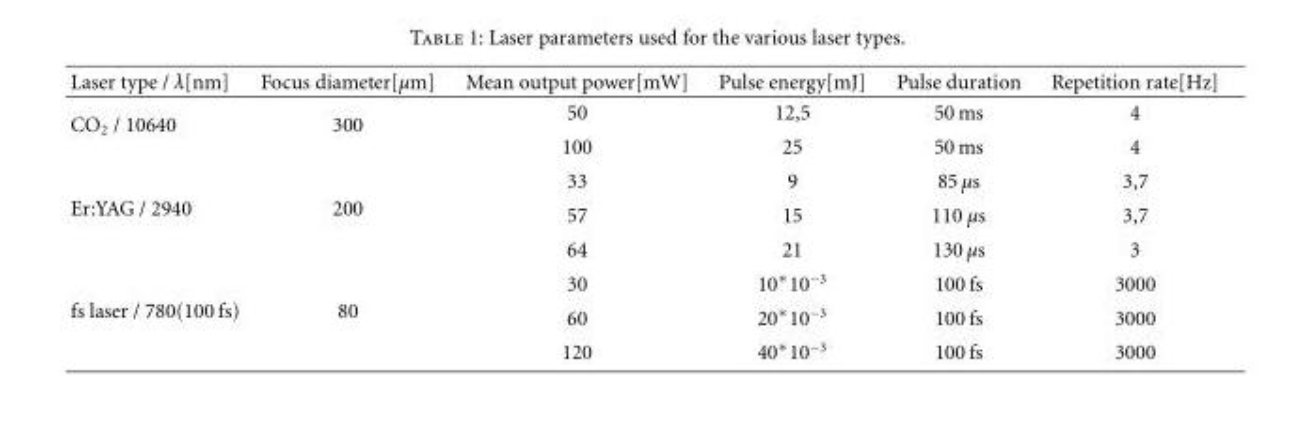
<table><thead><tr><td>Laser type / λ[nm]</td><td>Focus diameter[μm]</td><td>Mean output power[mW]</td><td>Pulse energy[mJ]</td><td>Pulse duration</td><td>Repetition rate[Hz]</td></tr></thead><tbody><tr><td rowspan="2">CO<sub>2</sub> / 10640</td><td rowspan="2">300</td><td>50</td><td>12,5</td><td>50 ms</td><td>4</td></tr><tr><td>100</td><td>25</td><td>50 ms</td><td>4</td></tr><tr><td rowspan="3">Er:YAG / 2940</td><td rowspan="3">200</td><td>33</td><td>9</td><td>85 μs</td><td>3,7</td></tr><tr><td>57</td><td>15</td><td>110 μs</td><td>3,7</td></tr><tr><td>64</td><td>21</td><td>130 μs</td><td>3</td></tr><tr><td rowspan="3">fs laser / 780(100 fs)</td><td rowspan="3">80</td><td>30</td><td>10∗10−3</td><td>100 fs</td><td>3000</td></tr><tr><td>60</td><td>20∗10−3</td><td>100 fs</td><td>3000</td></tr><tr><td>120</td><td>40∗10−3</td><td>100 fs</td><td>3000</td></tr></tbody></table>